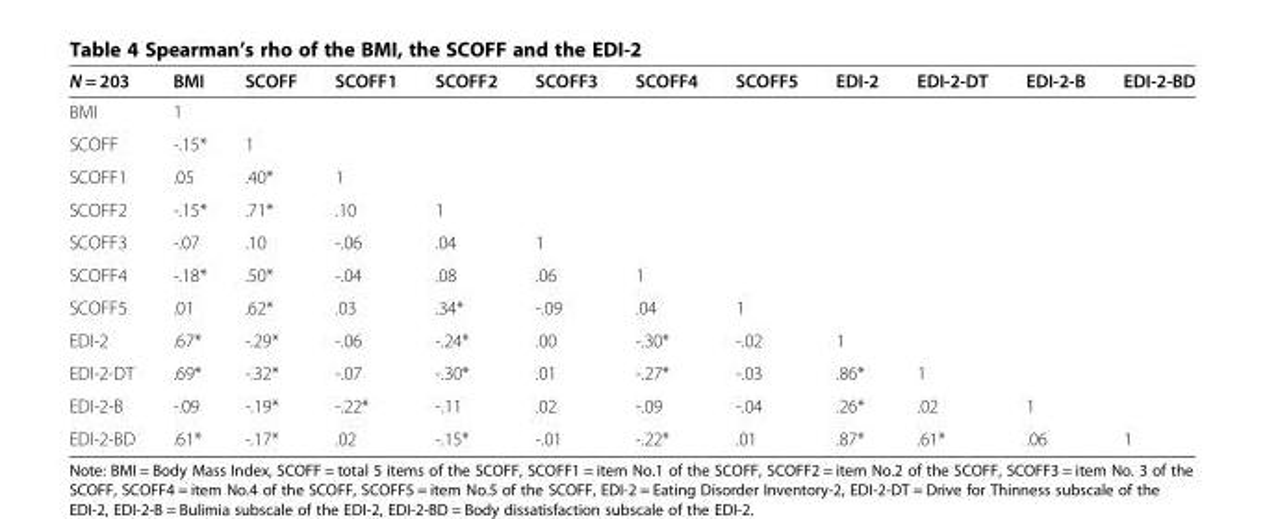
<table><thead><tr><td>N = 203</td><td>BMI</td><td>SCOFF</td><td>SCOFF1</td><td>SCOFF2</td><td>SCOFF3</td><td>SCOFF4</td><td>SCOFF5</td><td>EDI-2</td><td>EDI-2-DT</td><td>EDI-2-B</td><td>EDI-2-BD</td></tr></thead><tbody><tr><td>BMI</td><td>1</td><td></td><td></td><td></td><td></td><td></td><td></td><td></td><td></td><td></td><td></td></tr><tr><td>SCOFF</td><td>-.15*</td><td>1</td><td></td><td></td><td></td><td></td><td></td><td></td><td></td><td></td><td></td></tr><tr><td>SCOFF1</td><td>.05</td><td>.40*</td><td>1</td><td></td><td></td><td></td><td></td><td></td><td></td><td></td><td></td></tr><tr><td>SCOFF2</td><td>-.15*</td><td>.71*</td><td>.10</td><td>1</td><td></td><td></td><td></td><td></td><td></td><td></td><td></td></tr><tr><td>SCOFF3</td><td>-.07</td><td>.10</td><td>-.06</td><td>.04</td><td>1</td><td></td><td></td><td></td><td></td><td></td><td></td></tr><tr><td>SCOFF4</td><td>-.18*</td><td>.50*</td><td>-.04</td><td>.08</td><td>.06</td><td>1</td><td></td><td></td><td></td><td></td><td></td></tr><tr><td>SCOFF5</td><td>.01</td><td>.62*</td><td>.03</td><td>.34*</td><td>-.09</td><td>.04</td><td>1</td><td></td><td></td><td></td><td></td></tr><tr><td>EDI-2</td><td>.67*</td><td>-.29*</td><td>-.06</td><td>-.24*</td><td>.00</td><td>-.30*</td><td>-.02</td><td>1</td><td></td><td></td><td></td></tr><tr><td>EDI-2-DT</td><td>.69*</td><td>-.32*</td><td>-.07</td><td>-.30*</td><td>.01</td><td>-.27*</td><td>-.03</td><td>.86*</td><td>1</td><td></td><td></td></tr><tr><td>EDI-2-B</td><td>-.09</td><td>-.19*</td><td>-.22*</td><td>-.11</td><td>.02</td><td>-.09</td><td>-.04</td><td>.26*</td><td>.02</td><td>1</td><td></td></tr><tr><td>EDI-2-BD</td><td>.61*</td><td>-.17*</td><td>.02</td><td>-.15*</td><td>-.01</td><td>-.22*</td><td>.01</td><td>.87*</td><td>.61*</td><td>.06</td><td>1</td></tr></tbody></table>